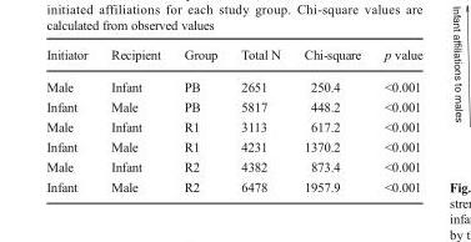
<table><thead><tr><td>Initiator</td><td>Recipient</td><td>Group</td><td>Total N</td><td>Chi-square</td><td>p value</td></tr></thead><tbody><tr><td>Male</td><td>Infant</td><td>PB</td><td>2651</td><td>250.4</td><td>&lt;0.001</td></tr><tr><td>Infant</td><td>Male</td><td>PB</td><td>5817</td><td>448.2</td><td>&lt;0.001</td></tr><tr><td>Male</td><td>Infant</td><td>R1</td><td>3113</td><td>617.2</td><td>&lt;0.001</td></tr><tr><td>Infant</td><td>Male</td><td>R1</td><td>4231</td><td>1370.2</td><td>&lt;0.001</td></tr><tr><td>Male</td><td>Infant</td><td>R2</td><td>4382</td><td>873.4</td><td>&lt;0.001</td></tr><tr><td>Infant</td><td>Male</td><td>R2</td><td>6478</td><td>1957.9</td><td>&lt;0.001</td></tr></tbody></table>